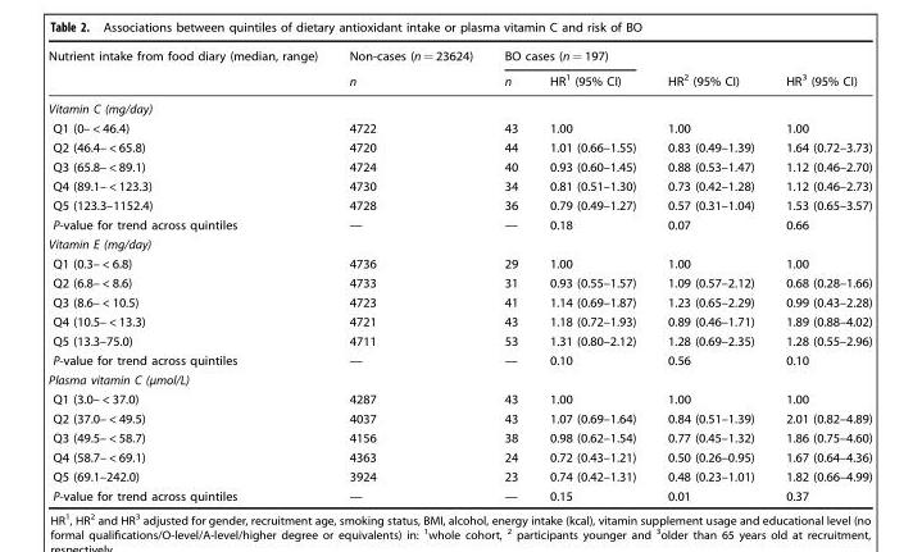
<table><thead><tr><td rowspan="2">Nutrient intake from food diary (median, range)</td><td rowspan="2">Non-cases (n = 23624) n</td><td colspan="2">BO cases (n = 197)</td><td rowspan="2">HR<sup>2</sup> (95% CI)</td><td rowspan="2">HR<sup>3</sup> (95% CI)</td></tr><tr><td>n</td><td>HR<sup>1</sup> (95% CI)</td></tr></thead><tbody><tr><td colspan="6">Vitamin C (mg/day)</td></tr><tr><td>Q1 (0– &lt; 46.4)</td><td>4722</td><td>43</td><td>1.00</td><td>1.00</td><td>1.00</td></tr><tr><td>Q2 (46.4– &lt; 65.8)</td><td>4720</td><td>44</td><td>1.01 (0.66–1.55)</td><td>0.83 (0.49–1.39)</td><td>1.64 (0.72–3.73)</td></tr><tr><td>Q3 (65.8– &lt; 89.1)</td><td>4724</td><td>40</td><td>0.93 (0.60–1.45)</td><td>0.88 (0.53–1.47)</td><td>1.12 (0.46–2.70)</td></tr><tr><td>Q4 (89.1– &lt; 123.3)</td><td>4730</td><td>34</td><td>0.81 (0.51–1.30)</td><td>0.73 (0.42–1.28)</td><td>1.12 (0.46–2.73)</td></tr><tr><td>Q5 (123.3–1152.4)</td><td>4728</td><td>36</td><td>0.79 (0.49–1.27)</td><td>0.57 (0.31–1.04)</td><td>1.53 (0.65–3.57)</td></tr><tr><td>P-value for trend across quintiles</td><td>—</td><td>—</td><td>0.18</td><td>0.07</td><td>0.66</td></tr><tr><td colspan="6">Vitamin E (mg/day)</td></tr><tr><td>Q1 (0.3– &lt; 6.8)</td><td>4736</td><td>29</td><td>1.00</td><td>1.00</td><td>1.00</td></tr><tr><td>Q2 (6.8– &lt; 8.6)</td><td>4733</td><td>31</td><td>0.93 (0.55–1.57)</td><td>1.09 (0.57–2.12)</td><td>0.68 (0.28–1.66)</td></tr><tr><td>Q3 (8.6– &lt; 10.5)</td><td>4723</td><td>41</td><td>1.14 (0.69–1.87)</td><td>1.23 (0.65–2.29)</td><td>0.99 (0.43–2.28)</td></tr><tr><td>Q4 (10.5– &lt; 13.3)</td><td>4721</td><td>43</td><td>1.18 (0.72–1.93)</td><td>0.89 (0.46–1.71)</td><td>1.89 (0.88–4.02)</td></tr><tr><td>Q5 (13.3–75.0)</td><td>4711</td><td>53</td><td>1.31 (0.80–2.12)</td><td>1.28 (0.69–2.35)</td><td>1.28 (0.55–2.96)</td></tr><tr><td>P-value for trend across quintiles</td><td>—</td><td>—</td><td>0.10</td><td>0.56</td><td>0.10</td></tr><tr><td colspan="6">Plasma vitamin C (μmol/L)</td></tr><tr><td>Q1 (3.0– &lt; 37.0)</td><td>4287</td><td>43</td><td>1.00</td><td>1.00</td><td>1.00</td></tr><tr><td>Q2 (37.0– &lt; 49.5)</td><td>4037</td><td>43</td><td>1.07 (0.69–1.64)</td><td>0.84 (0.51–1.39)</td><td>2.01 (0.82–4.89)</td></tr><tr><td>Q3 (49.5– &lt; 58.7)</td><td>4156</td><td>38</td><td>0.98 (0.62–1.54)</td><td>0.77 (0.45–1.32)</td><td>1.86 (0.75–4.60)</td></tr><tr><td>Q4 (58.7– &lt; 69.1)</td><td>4363</td><td>24</td><td>0.72 (0.43–1.21)</td><td>0.50 (0.26–0.95)</td><td>1.67 (0.64–4.36)</td></tr><tr><td>Q5 (69.1–242.0)</td><td>3924</td><td>23</td><td>0.74 (0.42–1.31)</td><td>0.48 (0.23–1.01)</td><td>1.82 (0.66–4.99)</td></tr><tr><td>P-value for trend across quintiles</td><td>—</td><td>—</td><td>0.15</td><td>0.01</td><td>0.37</td></tr></tbody></table>